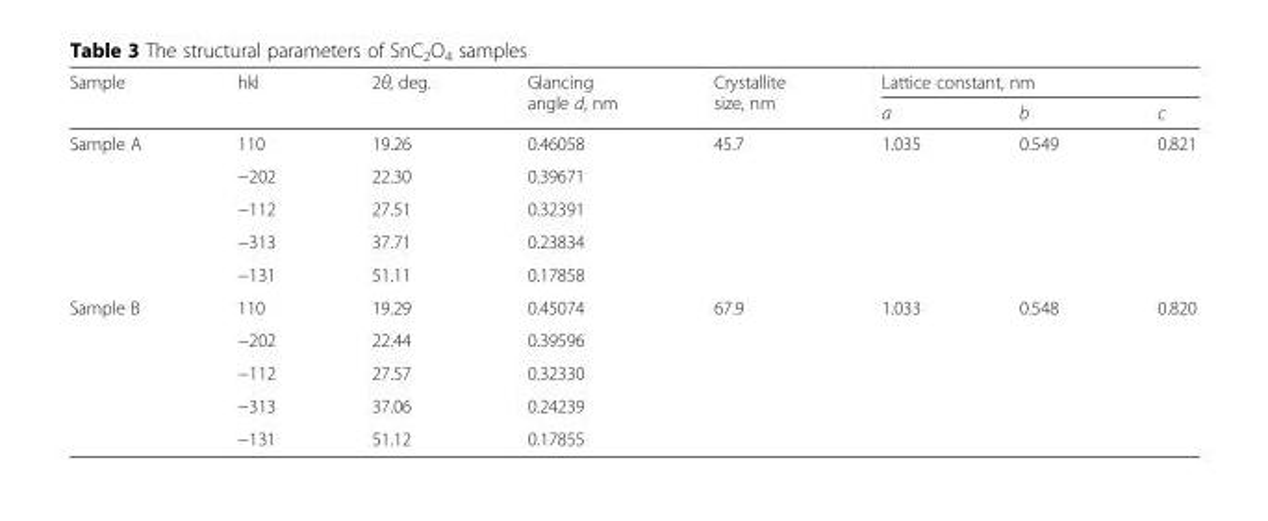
<table><thead><tr><td rowspan="2">Sample</td><td rowspan="2">hkl</td><td rowspan="2">2θ, deg.</td><td rowspan="2">Glancing angle d, nm</td><td rowspan="2">Crystallite size, nm</td><td colspan="3">Lattice constant, nm</td></tr><tr><td>a</td><td>b</td><td>c</td></tr></thead><tbody><tr><td rowspan="5">Sample A</td><td>110</td><td>19.26</td><td>0.46058</td><td rowspan="5">45.7</td><td rowspan="5">1.035</td><td rowspan="5">0.549</td><td rowspan="5">0.821</td></tr><tr><td>−202</td><td>22.30</td><td>0.39671</td></tr><tr><td>−112</td><td>27.51</td><td>0.32391</td></tr><tr><td>−313</td><td>37.71</td><td>0.23834</td></tr><tr><td>−131</td><td>51.11</td><td>0.17858</td></tr><tr><td rowspan="5">Sample B</td><td>110</td><td>19.29</td><td>0.45074</td><td rowspan="5">67.9</td><td rowspan="5">1.033</td><td rowspan="5">0.548</td><td rowspan="5">0.820</td></tr><tr><td>−202</td><td>22.44</td><td>0.39596</td></tr><tr><td>−112</td><td>27.57</td><td>0.32330</td></tr><tr><td>−313</td><td>37.06</td><td>0.24239</td></tr><tr><td>−131</td><td>51.12</td><td>0.17855</td></tr></tbody></table>